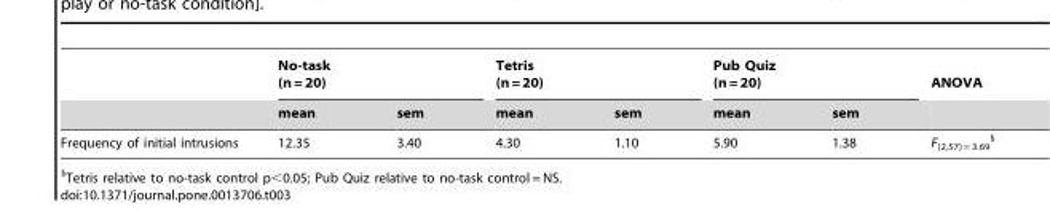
<table><thead><tr><td rowspan="2"></td><td colspan="2">No-task (n = 20)</td><td colspan="2">Tetris (n = 20)</td><td colspan="2">Pub Quiz (n = 20)</td><td rowspan="2">ANOVA</td></tr><tr><td>mean</td><td>sem</td><td>mean</td><td>sem</td><td>mean</td><td>sem</td></tr></thead><tbody><tr><td>Frequency of initial intrusions</td><td>12.35</td><td>3.40</td><td>4.30</td><td>1.10</td><td>5.90</td><td>1.38</td><td>F(2,57) = 3.69</td></tr></tbody></table>